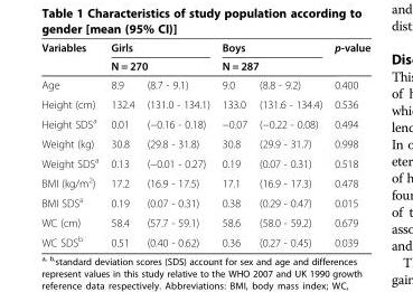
<table><thead><tr><td rowspan="3">Variables Age</td><td rowspan="2" colspan="2">Girls N = 270</td><td rowspan="2" colspan="2">Boys N = 287</td><td rowspan="3">p-value 0.400</td></tr><tr></tr><tr><td>8.9</td><td>(8.7 - 9.1)</td><td>9.0</td><td>(8.8 - 9.2)</td></tr></thead><tbody><tr><td>Height (cm)</td><td>132.4</td><td>(131.0 - 134.1)</td><td>133.0</td><td>(131.6 - 134.4)</td><td>0.536</td></tr><tr><td>Height SDS<sup>a</sup></td><td>0.01</td><td>(−0.16 - 0.18)</td><td>−0.07</td><td>(−0.22 - 0.08)</td><td>0.494</td></tr><tr><td>Weight (kg)</td><td>30.8</td><td>(29.8 - 31.8)</td><td>30.8</td><td>(29.9 - 31.7)</td><td>0.998</td></tr><tr><td>Weight SDS<sup>a</sup></td><td>0.13</td><td>(−0.01 - 0.27)</td><td>0.19</td><td>(0.07 - 0.31)</td><td>0.518</td></tr><tr><td>BMI (kg/m<sup>2</sup>)</td><td>17.2</td><td>(16.9 - 17.5)</td><td>17.1</td><td>(16.9 - 17.3)</td><td>0.478</td></tr><tr><td>BMI SDS<sup>a</sup></td><td>0.19</td><td>(0.07 - 0.31)</td><td>0.38</td><td>(0.29 - 0.47)</td><td>0.015</td></tr><tr><td>WC (cm)</td><td>58.4</td><td>(57.7 - 59.1)</td><td>58.6</td><td>(58.0 - 59.2)</td><td>0.679</td></tr><tr><td>WC SDS<sup>b</sup></td><td>0.51</td><td>(0.40 - 0.62)</td><td>0.36</td><td>(0.27 - 0.45)</td><td>0.039</td></tr></tbody></table>